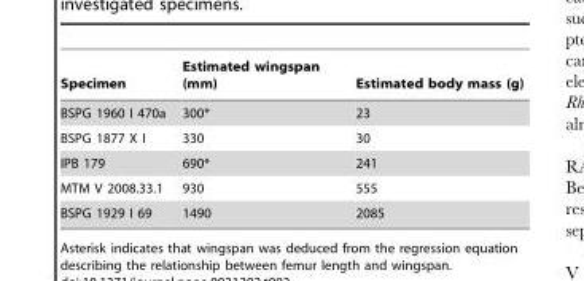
<table><thead><tr><td>Specimen</td><td>Estimated wingspan (mm)</td><td>Estimated body mass (g)</td></tr></thead><tbody><tr><td>BSPG 1960 I 470a</td><td>300*</td><td>23</td></tr><tr><td>BSPG 1877 X I</td><td>330</td><td>30</td></tr><tr><td>IPB 179</td><td>690*</td><td>241</td></tr><tr><td>MTM V 2008.33.1</td><td>930</td><td>555</td></tr><tr><td>BSPG 1929 I 69</td><td>1490</td><td>2085</td></tr></tbody></table>